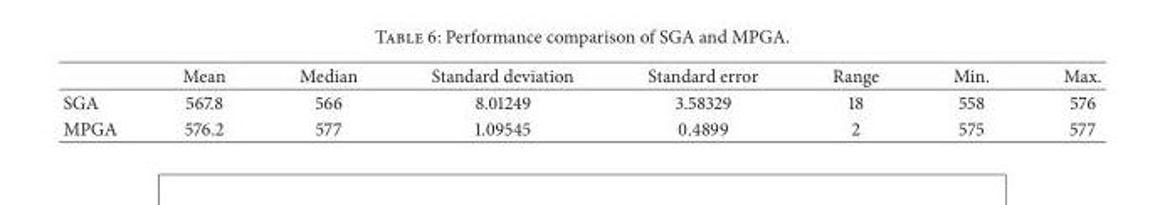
<table><thead><tr><td></td><td>Mean</td><td>Median</td><td>Standard deviation</td><td>Standard error</td><td>Range</td><td>Min.</td><td>Max.</td></tr></thead><tbody><tr><td>SGA</td><td>567.8</td><td>566</td><td>8.01249</td><td>3.58329</td><td>18</td><td>558</td><td>576</td></tr><tr><td>MPGA</td><td>576.2</td><td>577</td><td>1.09545</td><td>0.4899</td><td>2</td><td>575</td><td>577</td></tr></tbody></table>